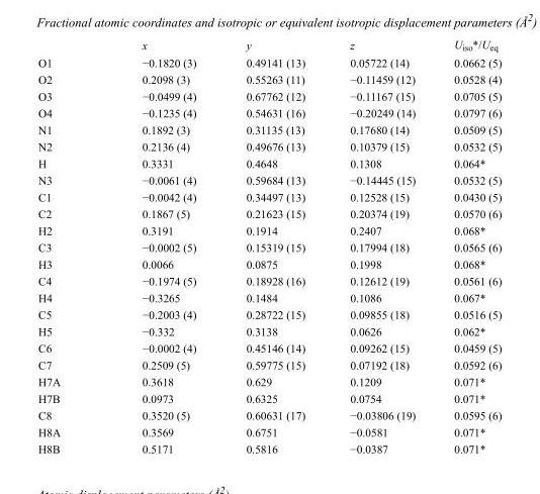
<table><thead><tr><td></td><td>x</td><td>y</td><td>z</td><td>U<sub>iso</sub>*/U<sub>eq</sub></td></tr></thead><tbody><tr><td>O1</td><td>−0.1820 (3)</td><td>0.49141 (13)</td><td>0.05722 (14)</td><td>0.0662 (5)</td></tr><tr><td>O2</td><td>0.2098 (3)</td><td>0.55263 (11)</td><td>−0.11459 (12)</td><td>0.0528 (4)</td></tr><tr><td>O3</td><td>−0.0499 (4)</td><td>0.67762 (12)</td><td>−0.11167 (15)</td><td>0.0705 (5)</td></tr><tr><td>O4</td><td>−0.1235 (4)</td><td>0.54631 (16)</td><td>−0.20249 (14)</td><td>0.0797 (6)</td></tr><tr><td>N1</td><td>0.1892 (3)</td><td>0.31135 (13)</td><td>0.17680 (14)</td><td>0.0509 (5)</td></tr><tr><td>N2</td><td>0.2136 (4)</td><td>0.49676 (13)</td><td>0.10379 (15)</td><td>0.0532 (5)</td></tr><tr><td>H</td><td>0.3331</td><td>0.4648</td><td>0.1308</td><td>0.064*</td></tr><tr><td>N3</td><td>−0.0061 (4)</td><td>0.59684 (13)</td><td>−0.14445 (15)</td><td>0.0532 (5)</td></tr><tr><td>C1</td><td>−0.0042 (4)</td><td>0.34497 (13)</td><td>0.12528 (15)</td><td>0.0430 (5)</td></tr><tr><td>C2</td><td>0.1867 (5)</td><td>0.21623 (15)</td><td>0.20374 (19)</td><td>0.0570 (6)</td></tr><tr><td>H2</td><td>0.3191</td><td>0.1914</td><td>0.2407</td><td>0.068*</td></tr><tr><td>C3</td><td>−0.0002 (5)</td><td>0.15319 (15)</td><td>0.17994 (18)</td><td>0.0565 (6)</td></tr><tr><td>H3</td><td>0.0066</td><td>0.0875</td><td>0.1998</td><td>0.068*</td></tr><tr><td>C4</td><td>−0.1974 (5)</td><td>0.18928 (16)</td><td>0.12612 (19)</td><td>0.0561 (6)</td></tr><tr><td>H4</td><td>−0.3265</td><td>0.1484</td><td>0.1086</td><td>0.067*</td></tr><tr><td>C5</td><td>−0.2003 (4)</td><td>0.28722 (15)</td><td>0.09855 (18)</td><td>0.0516 (5)</td></tr><tr><td>H5</td><td>−0.332</td><td>0.3138</td><td>0.0626</td><td>0.062*</td></tr><tr><td>C6</td><td>−0.0002 (4)</td><td>0.45146 (14)</td><td>0.09262 (15)</td><td>0.0459 (5)</td></tr><tr><td>C7</td><td>0.2509 (5)</td><td>0.59775 (15)</td><td>0.07192 (18)</td><td>0.0592 (6)</td></tr><tr><td>H7A</td><td>0.3618</td><td>0.629</td><td>0.1209</td><td>0.071*</td></tr><tr><td>H7B</td><td>0.0973</td><td>0.6325</td><td>0.0754</td><td>0.071*</td></tr><tr><td>C8</td><td>0.3520 (5)</td><td>0.60631 (17)</td><td>−0.03806 (19)</td><td>0.0595 (6)</td></tr><tr><td>H8A</td><td>0.3569</td><td>0.6751</td><td>−0.0581</td><td>0.071*</td></tr><tr><td>H8B</td><td>0.5171</td><td>0.5816</td><td>−0.0387</td><td>0.071*</td></tr></tbody></table>